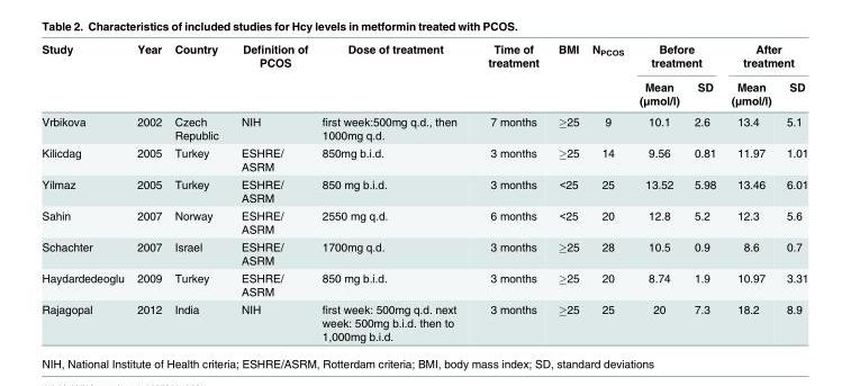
<table><thead><tr><td rowspan="2">Study</td><td rowspan="2">Year</td><td rowspan="2">Country</td><td rowspan="2">Definition of PCOS</td><td rowspan="2">Dose of treatment</td><td rowspan="2">Time of treatment</td><td rowspan="2">BMI</td><td rowspan="2">N<sub>PCOS</sub></td><td colspan="2">Before treatment</td><td colspan="2">After treatment</td></tr><tr><td>Mean (μmol/l)</td><td>SD</td><td>Mean (μmol/l)</td><td>SD</td></tr></thead><tbody><tr><td>Vrbikova</td><td>2002</td><td>Czech Republic</td><td>NIH</td><td>first week:500mg q.d., then 1000mg q.d.</td><td>7 months</td><td>≥25</td><td>9</td><td>10.1</td><td>2.6</td><td>13.4</td><td>5.1</td></tr><tr><td>Kilicdag</td><td>2005</td><td>Turkey</td><td>ESHRE/ ASRM</td><td>850mg b.i.d.</td><td>3 months</td><td>≥25</td><td>14</td><td>9.56</td><td>0.81</td><td>11.97</td><td>1.01</td></tr><tr><td>Yilmaz</td><td>2005</td><td>Turkey</td><td>ESHRE/ ASRM</td><td>850 mg b.i.d.</td><td>3 months</td><td>&lt;25</td><td>25</td><td>13.52</td><td>5.98</td><td>13.46</td><td>6.01</td></tr><tr><td>Sahin</td><td>2007</td><td>Norway</td><td>ESHRE/ ASRM</td><td>2550 mg q.d.</td><td>6 months</td><td>&lt;25</td><td>20</td><td>12.8</td><td>5.2</td><td>12.3</td><td>5.6</td></tr><tr><td>Schachter</td><td>2007</td><td>Israel</td><td>ESHRE/ ASRM</td><td>1700mg q.d.</td><td>3 months</td><td>≥25</td><td>28</td><td>10.5</td><td>0.9</td><td>8.6</td><td>0.7</td></tr><tr><td>Haydardedeoglu</td><td>2009</td><td>Turkey</td><td>ESHRE/ ASRM</td><td>850 mg b.i.d.</td><td>3 months</td><td>≥25</td><td>20</td><td>8.74</td><td>1.9</td><td>10.97</td><td>3.31</td></tr><tr><td>Rajagopal</td><td>2012</td><td>India</td><td>NIH</td><td>first week: 500mg q.d. next week: 500mg b.i.d. then to 1,000mg b.i.d.</td><td>3 months</td><td>≥25</td><td>25</td><td>20</td><td>7.3</td><td>18.2</td><td>8.9</td></tr></tbody></table>